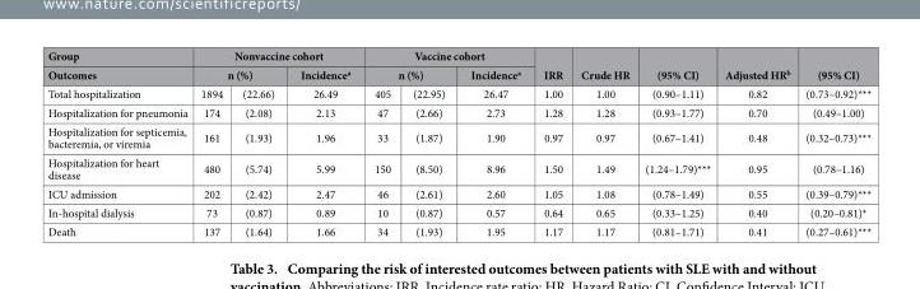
<table><thead><tr><td rowspan="3">Group Outcomes Total hospitalization</td><td colspan="3">Nonvaccine cohort</td><td colspan="3">Vaccine cohort</td><td rowspan="3">IRR 1.00</td><td rowspan="3">Crude HR 1.00</td><td rowspan="3">(95% CI) (0.90–1.11)</td><td rowspan="3">Adjusted HR<sup>b</sup> 0.82</td><td rowspan="3">(95% CI) (0.73–0.92)***</td></tr><tr><td colspan="2">n (%)</td><td rowspan="2">Incidence<sup>a</sup> 26.49</td><td colspan="2">n (%)</td><td rowspan="2">Incidence<sup>a</sup> 26.47</td></tr><tr><td>1894</td><td>(22.66)</td><td>405</td><td>(22.95)</td></tr></thead><tbody><tr><td>Hospitalization for pneumonia</td><td>174</td><td>(2.08)</td><td>2.13</td><td>47</td><td>(2.66)</td><td>2.73</td><td>1.28</td><td>1.28</td><td>(0.93–1.77)</td><td>0.70</td><td>(0.49–1.00)</td></tr><tr><td>Hospitalization for septicemia, bacteremia, or viremia</td><td>161</td><td>(1.93)</td><td>1.96</td><td>33</td><td>(1.87)</td><td>1.90</td><td>0.97</td><td>0.97</td><td>(0.67–1.41)</td><td>0.48</td><td>(0.32–0.73)***</td></tr><tr><td>Hospitalization for heart disease</td><td>480</td><td>(5.74)</td><td>5.99</td><td>150</td><td>(8.50)</td><td>8.96</td><td>1.50</td><td>1.49</td><td>(1.24–1.79)***</td><td>0.95</td><td>(0.78–1.16)</td></tr><tr><td>ICU admission</td><td>202</td><td>(2.42)</td><td>2.47</td><td>46</td><td>(2.61)</td><td>2.60</td><td>1.05</td><td>1.08</td><td>(0.78–1.49)</td><td>0.55</td><td>(0.39–0.79)***</td></tr><tr><td>In-hospital dialysis</td><td>73</td><td>(0.87)</td><td>0.89</td><td>10</td><td>(0.87)</td><td>0.57</td><td>0.64</td><td>0.65</td><td>(0.33–1.25)</td><td>0.40</td><td>(0.20–0.81)*</td></tr><tr><td>Death</td><td>137</td><td>(1.64)</td><td>1.66</td><td>34</td><td>(1.93)</td><td>1.95</td><td>1.17</td><td>1.17</td><td>(0.81–1.71)</td><td>0.41</td><td>(0.27–0.61)***</td></tr></tbody></table>